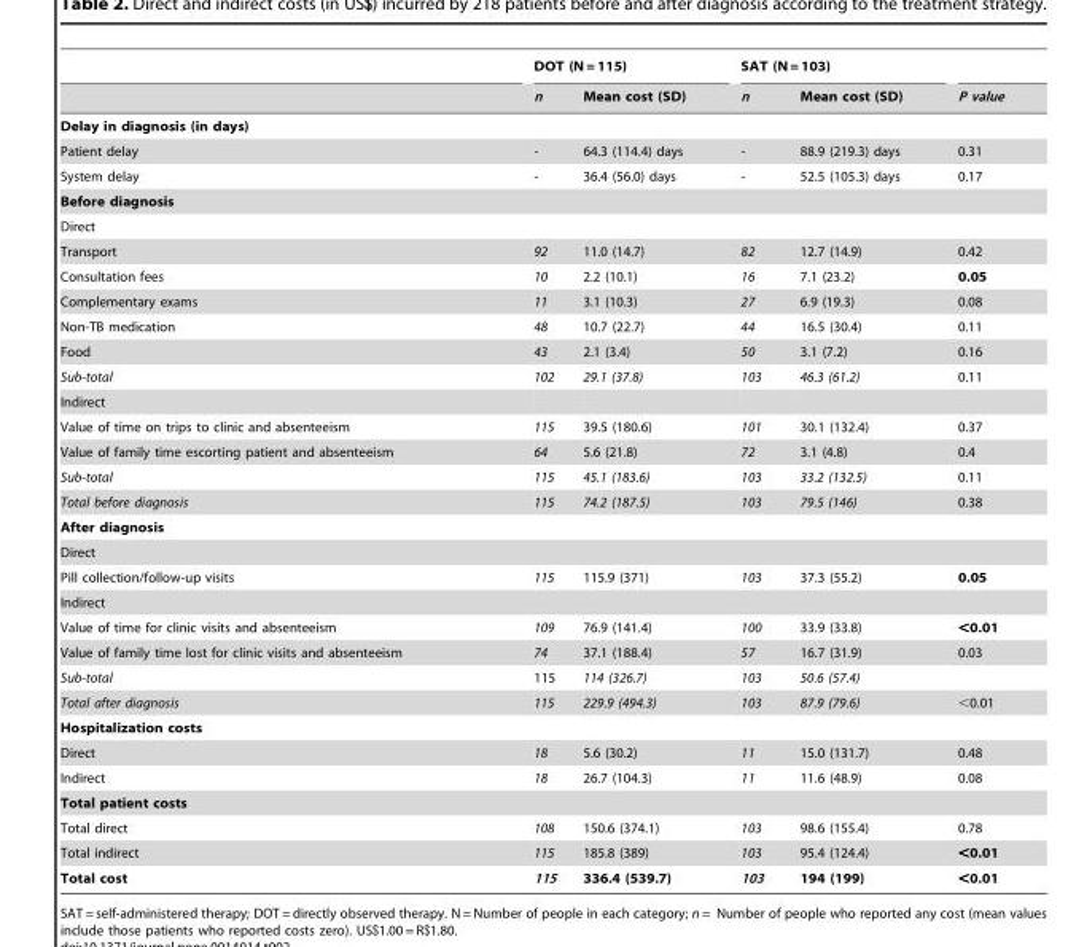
<table><thead><tr><td rowspan="2"></td><td colspan="2">DOT (N = 115)</td><td colspan="2">SAT (N = 103)</td><td rowspan="2">P value</td></tr><tr><td>n</td><td>Mean cost (SD)</td><td>n</td><td>Mean cost (SD)</td></tr></thead><tbody><tr><td colspan="6">Delay in diagnosis (in days)</td></tr><tr><td>Patient delay</td><td>-</td><td>64.3 (114.4) days</td><td>-</td><td>88.9 (219.3) days</td><td>0.31</td></tr><tr><td>System delay</td><td>-</td><td>36.4 (56.0) days</td><td>-</td><td>52.5 (105.3) days</td><td>0.17</td></tr><tr><td colspan="6">Before diagnosis</td></tr><tr><td colspan="6">Direct</td></tr><tr><td>Transport</td><td>92</td><td>11.0 (14.7)</td><td>82</td><td>12.7 (14.9)</td><td>0.42</td></tr><tr><td>Consultation fees</td><td>10</td><td>2.2 (10.1)</td><td>16</td><td>7.1 (23.2)</td><td>0.05</td></tr><tr><td>Complementary exams</td><td>11</td><td>3.1 (10.3)</td><td>27</td><td>6.9 (19.3)</td><td>0.08</td></tr><tr><td>Non-TB medication</td><td>48</td><td>10.7 (22.7)</td><td>44</td><td>16.5 (30.4)</td><td>0.11</td></tr><tr><td>Food</td><td>43</td><td>2.1 (3.4)</td><td>50</td><td>3.1 (7.2)</td><td>0.16</td></tr><tr><td>Sub-total</td><td>102</td><td>29.1 (37.8)</td><td>103</td><td>46.3 (61.2)</td><td>0.11</td></tr><tr><td colspan="6">Indirect</td></tr><tr><td>Value of time on trips to clinic and absenteeism</td><td>115</td><td>39.5 (180.6)</td><td>101</td><td>30.1 (132.4)</td><td>0.37</td></tr><tr><td>Value of family time escorting patient and absenteeism</td><td>64</td><td>5.6 (21.8)</td><td>72</td><td>3.1 (4.8)</td><td>0.4</td></tr><tr><td>Sub-total</td><td>115</td><td>45.1 (183.6)</td><td>103</td><td>33.2 (132.5)</td><td>0.11</td></tr><tr><td>Total before diagnosis</td><td>115</td><td>74.2 (187.5)</td><td>103</td><td>79.5 (146)</td><td>0.38</td></tr><tr><td colspan="6">After diagnosis</td></tr><tr><td colspan="6">Direct</td></tr><tr><td>Pill collection/follow-up visits</td><td>115</td><td>115.9 (371)</td><td>103</td><td>37.3 (55.2)</td><td>0.05</td></tr><tr><td colspan="6">Indirect</td></tr><tr><td>Value of time for clinic visits and absenteeism</td><td>109</td><td>76.9 (141.4)</td><td>100</td><td>33.9 (33.8)</td><td>&lt;0.01</td></tr><tr><td>Value of family time lost for clinic visits and absenteeism</td><td>74</td><td>37.1 (188.4)</td><td>57</td><td>16.7 (31.9)</td><td>0.03</td></tr><tr><td>Sub-total</td><td>115</td><td>114 (326.7)</td><td>103</td><td>50.6 (57.4)</td><td></td></tr><tr><td>Total after diagnosis</td><td>115</td><td>229.9 (494.3)</td><td>103</td><td>87.9 (79.6)</td><td>&lt;0.01</td></tr><tr><td colspan="6">Hospitalization costs</td></tr><tr><td>Direct</td><td>18</td><td>5.6 (30.2)</td><td>11</td><td>15.0 (131.7)</td><td>0.48</td></tr><tr><td>Indirect</td><td>18</td><td>26.7 (104.3)</td><td>11</td><td>11.6 (48.9)</td><td>0.08</td></tr><tr><td colspan="6">Total patient costs</td></tr><tr><td>Total direct</td><td>108</td><td>150.6 (374.1)</td><td>103</td><td>98.6 (155.4)</td><td>0.78</td></tr><tr><td>Total indirect</td><td>115</td><td>185.8 (389)</td><td>103</td><td>95.4 (124.4)</td><td>&lt;0.01</td></tr><tr><td>Total cost</td><td>115</td><td>336.4 (539.7)</td><td>103</td><td>194 (199)</td><td>&lt;0.01</td></tr></tbody></table>